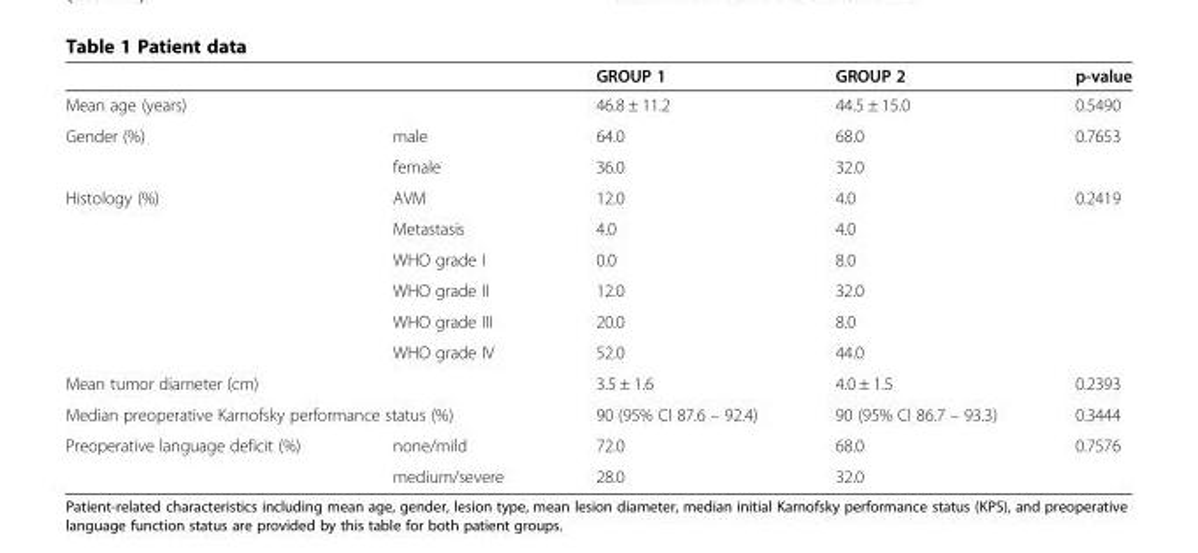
<table><thead><tr><td></td><td></td><td>GROUP 1</td><td>GROUP 2</td><td>p-value</td></tr></thead><tbody><tr><td colspan="2">Mean age (years)</td><td>46.8 ± 11.2</td><td>44.5 ± 15.0</td><td>0.5490</td></tr><tr><td rowspan="2">Gender (%)</td><td>male</td><td>64.0</td><td>68.0</td><td rowspan="2">0.7653</td></tr><tr><td>female</td><td>36.0</td><td>32.0</td></tr><tr><td rowspan="6">Histology (%)</td><td>AVM</td><td>12.0</td><td>4.0</td><td rowspan="6">0.2419</td></tr><tr><td>Metastasis</td><td>4.0</td><td>4.0</td></tr><tr><td>WHO grade I</td><td>0.0</td><td>8.0</td></tr><tr><td>WHO grade II</td><td>12.0</td><td>32.0</td></tr><tr><td>WHO grade III</td><td>20.0</td><td>8.0</td></tr><tr><td>WHO grade IV</td><td>52.0</td><td>44.0</td></tr><tr><td colspan="2">Mean tumor diameter (cm)</td><td>3.5 ± 1.6</td><td>4.0 ± 1.5</td><td>0.2393</td></tr><tr><td colspan="2">Median preoperative Karnofsky performance status (%)</td><td>90 (95% CI 87.6 – 92.4)</td><td>90 (95% CI 86.7 – 93.3)</td><td>0.3444</td></tr><tr><td rowspan="2">Preoperative language deficit (%)</td><td>none/mild</td><td>72.0</td><td>68.0</td><td rowspan="2">0.7576</td></tr><tr><td>medium/severe</td><td>28.0</td><td>32.0</td></tr></tbody></table>